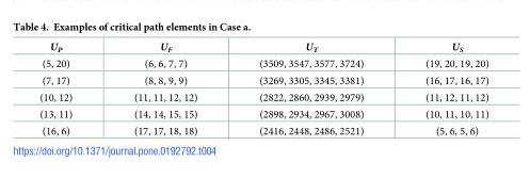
<table><thead><tr><td>U<sub>P</sub></td><td>U<sub>F</sub></td><td>U<sub>T</sub></td><td>U<sub>S</sub></td></tr></thead><tbody><tr><td>(5, 20)</td><td>(6, 6, 7, 7)</td><td>(3509, 3547, 3577, 3724)</td><td>(19, 20, 19, 20)</td></tr><tr><td>(7, 17)</td><td>(8, 8, 9, 9)</td><td>(3269, 3305, 3345, 3381)</td><td>(16, 17, 16, 17)</td></tr><tr><td>(10, 12)</td><td>(11, 11, 12, 12)</td><td>(2822, 2860, 2939, 2979)</td><td>(11, 12, 11, 12)</td></tr><tr><td>(13, 11)</td><td>(14, 14, 15, 15)</td><td>(2898, 2934, 2967, 3008)</td><td>(10, 11, 10, 11)</td></tr><tr><td>(16, 6)</td><td>(17, 17, 18, 18)</td><td>(2416, 2448, 2486, 2521)</td><td>(5, 6, 5, 6)</td></tr></tbody></table>